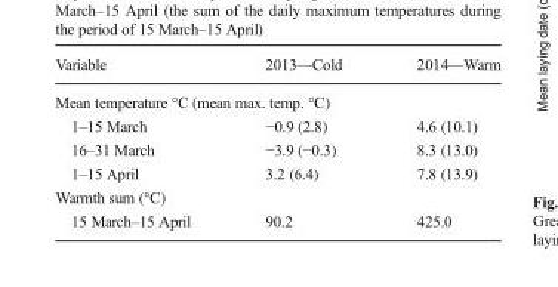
<table><thead><tr><td>Variable</td><td>2013—Cold</td><td>2014—Warm</td></tr></thead><tbody><tr><td colspan="3">Mean temperature °C (mean max. temp. °C)</td></tr><tr><td>1–15 March</td><td>−0.9 (2.8)</td><td>4.6 (10.1)</td></tr><tr><td>16–31 March</td><td>−3.9 (−0.3)</td><td>8.3 (13.0)</td></tr><tr><td>1–15 April</td><td>3.2 (6.4)</td><td>7.8 (13.9)</td></tr><tr><td colspan="3">Warmth sum (°C)</td></tr><tr><td>15 March–15 April</td><td>90.2</td><td>425.0</td></tr></tbody></table>